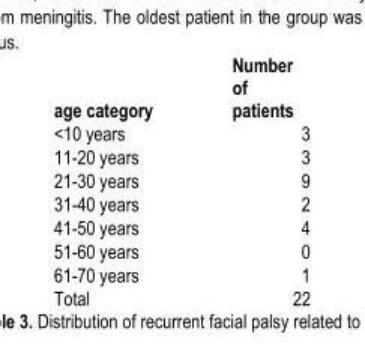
<table><thead><tr><td>age category</td><td>Number of patients</td></tr></thead><tbody><tr><td>&lt;10 years</td><td>3</td></tr><tr><td>11-20 years</td><td>3</td></tr><tr><td>21-30 years</td><td>9</td></tr><tr><td>31-40 years</td><td>2</td></tr><tr><td>41-50 years</td><td>4</td></tr><tr><td>51-60 years</td><td>0</td></tr><tr><td>61-70 years</td><td>1</td></tr><tr><td>Total</td><td>22</td></tr></tbody></table>